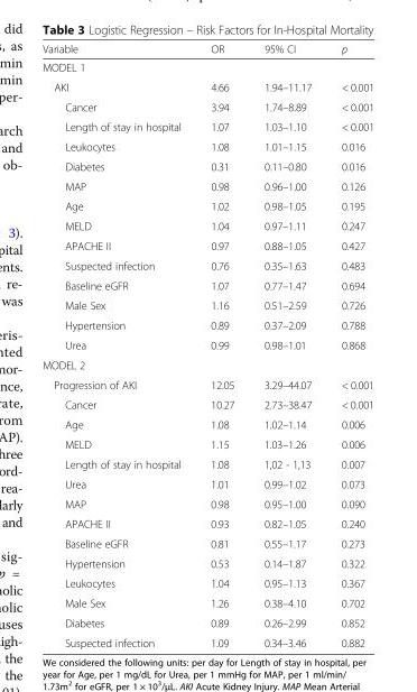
<table><thead><tr><td>Variable</td><td>OR</td><td>95% CI</td><td>p</td></tr></thead><tbody><tr><td colspan="4">MODEL 1</td></tr><tr><td>AKI</td><td>4.66</td><td>1.94–11.17</td><td>&lt; 0.001</td></tr><tr><td>Cancer</td><td>3.94</td><td>1.74–8.89</td><td>&lt; 0.001</td></tr><tr><td>Length of stay in hospital</td><td>1.07</td><td>1.03–1.10</td><td>&lt; 0.001</td></tr><tr><td>Leukocytes</td><td>1.08</td><td>1.01–1.15</td><td>0.016</td></tr><tr><td>Diabetes</td><td>0.31</td><td>0.11–0.80</td><td>0.016</td></tr><tr><td>MAP</td><td>0.98</td><td>0.96–1.00</td><td>0.126</td></tr><tr><td>Age</td><td>1.02</td><td>0.98–1.05</td><td>0.195</td></tr><tr><td>MELD</td><td>1.04</td><td>0.97–1.11</td><td>0.247</td></tr><tr><td>APACHE II</td><td>0.97</td><td>0.88–1.05</td><td>0.427</td></tr><tr><td>Suspected infection</td><td>0.76</td><td>0.35–1.63</td><td>0.483</td></tr><tr><td>Baseline eGFR</td><td>1.07</td><td>0.77–1.47</td><td>0.694</td></tr><tr><td>Male Sex</td><td>1.16</td><td>0.51–2.59</td><td>0.726</td></tr><tr><td>Hypertension</td><td>0.89</td><td>0.37–2.09</td><td>0.788</td></tr><tr><td>Urea</td><td>0.99</td><td>0.98–1.01</td><td>0.868</td></tr><tr><td colspan="4">MODEL 2</td></tr><tr><td>Progression of AKI</td><td>12.05</td><td>3.29–44.07</td><td>&lt; 0.001</td></tr><tr><td>Cancer</td><td>10.27</td><td>2.73–38.47</td><td>&lt; 0.001</td></tr><tr><td>Age</td><td>1.08</td><td>1.02–1.14</td><td>0.006</td></tr><tr><td>MELD</td><td>1.15</td><td>1.03–1.26</td><td>0.006</td></tr><tr><td>Length of stay in hospital</td><td>1.08</td><td>1,02 - 1,13</td><td>0.007</td></tr><tr><td>Urea</td><td>1.01</td><td>0.99–1.02</td><td>0.073</td></tr><tr><td>MAP</td><td>0.98</td><td>0.95–1.00</td><td>0.090</td></tr><tr><td>APACHE II</td><td>0.93</td><td>0.82–1.05</td><td>0.240</td></tr><tr><td>Baseline eGFR</td><td>0.81</td><td>0.55–1.17</td><td>0.273</td></tr><tr><td>Hypertension</td><td>0.53</td><td>0.14–1.87</td><td>0.322</td></tr><tr><td>Leukocytes</td><td>1.04</td><td>0.95–1.13</td><td>0.367</td></tr><tr><td>Male Sex</td><td>1.26</td><td>0.38–4.10</td><td>0.702</td></tr><tr><td>Diabetes</td><td>0.89</td><td>0.26–2.99</td><td>0.852</td></tr><tr><td>Suspected infection</td><td>1.09</td><td>0.34–3.46</td><td>0.882</td></tr></tbody></table>